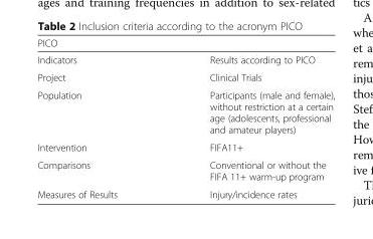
<table><thead><tr><td colspan="2">PICO</td></tr><tr><td>Indicators</td><td>Results according to PICO</td></tr></thead><tbody><tr><td>Project</td><td>Clinical Trials</td></tr><tr><td>Population</td><td>Participants (male and female), without restriction at a certain age (adolescents, professional and amateur players)</td></tr><tr><td>Intervention</td><td>FIFA11+</td></tr><tr><td>Comparisons</td><td>Conventional or without the FIFA 11+ warm-up program</td></tr><tr><td>Measures of Results</td><td>Injury/incidence rates</td></tr></tbody></table>